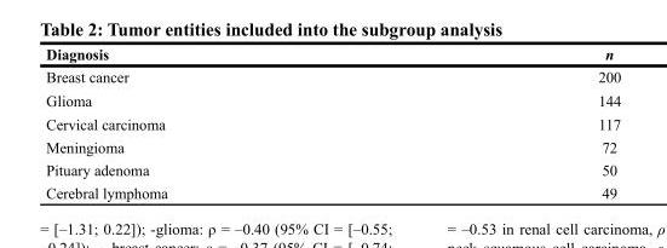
<table><thead><tr><td>Diagnosis</td><td>n</td></tr></thead><tbody><tr><td>Breast cancer</td><td>200</td></tr><tr><td>Glioma</td><td>144</td></tr><tr><td>Cervical carcinoma</td><td>117</td></tr><tr><td>Meningioma</td><td>72</td></tr><tr><td>Pituary adenoma</td><td>50</td></tr><tr><td>Cerebral lymphoma</td><td>49</td></tr></tbody></table>